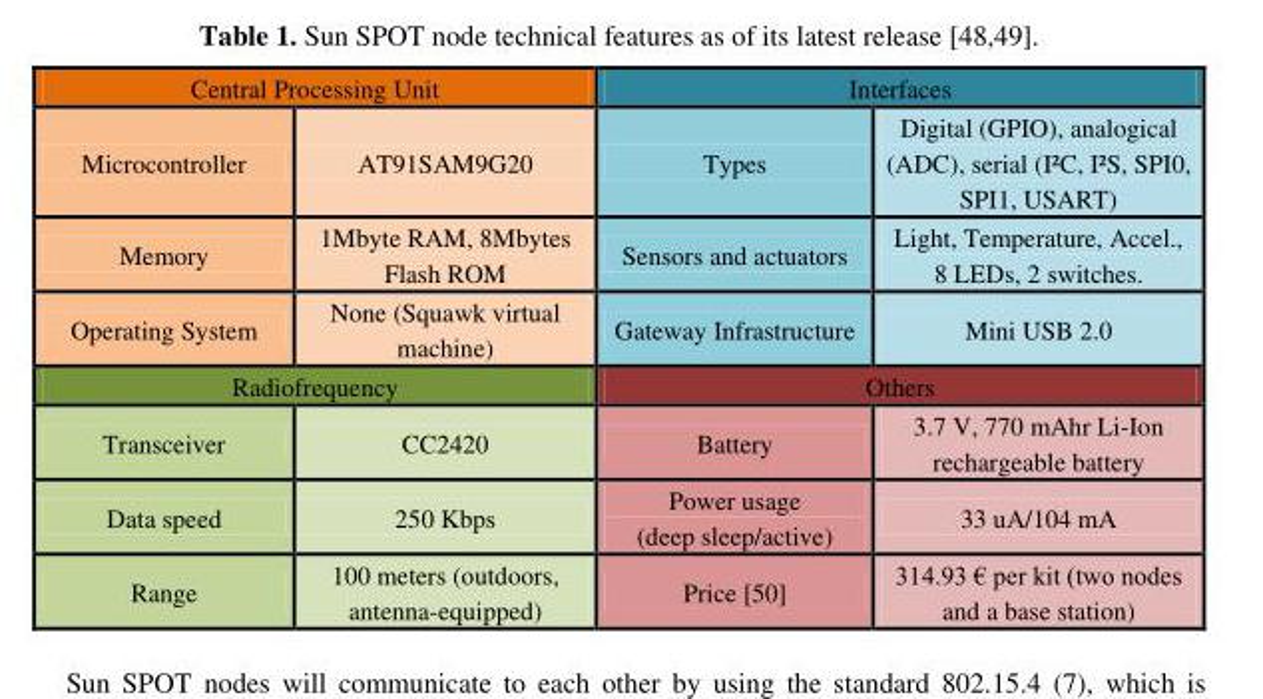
<table><thead><tr><td colspan="2">Central Processing Unit</td><td colspan="2">Interfaces</td></tr><tr><td>Microcontroller</td><td>AT91SAM9G20</td><td>Types</td><td>Digital (GPIO), analogical (ADC), serial (I²C, I²S, SPI0, SPI1, USART)</td></tr></thead><tbody><tr><td>Memory</td><td>1Mbyte RAM, 8Mbytes Flash ROM</td><td>Sensors and actuators</td><td>Light, Temperature, Accel., 8 LEDs, 2 switches.</td></tr><tr><td>Operating System</td><td>None (Squawk virtual machine)</td><td>Gateway Infrastructure</td><td>Mini USB 2.0</td></tr><tr><td colspan="2">Radiofrequency</td><td colspan="2">Others</td></tr><tr><td>Transceiver</td><td>CC2420</td><td>Battery</td><td>3.7 V, 770 mAhr Li-Ion rechargeable battery</td></tr><tr><td>Data speed</td><td>250 Kbps</td><td>Power usage (deep sleep/active)</td><td>33 uA/104 mA</td></tr><tr><td>Range</td><td>100 meters (outdoors, antenna-equipped)</td><td>Price [50]</td><td>314.93 € per kit (two nodes and a base station)</td></tr></tbody></table>